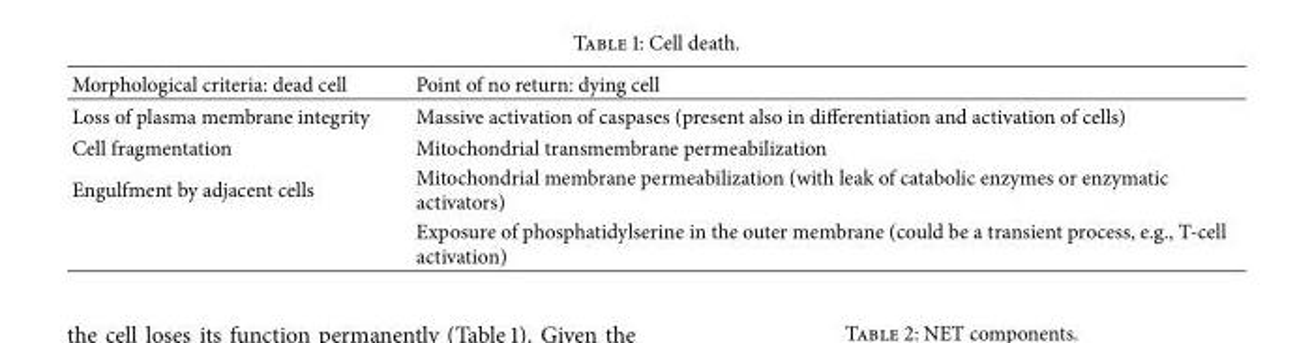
<table><thead><tr><td>Morphological criteria: dead cell</td><td>Point of no return: dying cell</td></tr></thead><tbody><tr><td>Loss of plasma membrane integrity</td><td>Massive activation of caspases (present also in differentiation and activation of cells)</td></tr><tr><td>Cell fragmentation</td><td>Mitochondrial transmembrane permeabilization</td></tr><tr><td rowspan="2">Engulfment by adjacent cells</td><td>Mitochondrial membrane permeabilization (with leak of catabolic enzymes or enzymatic activators)</td></tr><tr><td>Exposure of phosphatidylserine in the outer membrane (could be a transient process, e.g., T-cell activation)</td></tr></tbody></table>